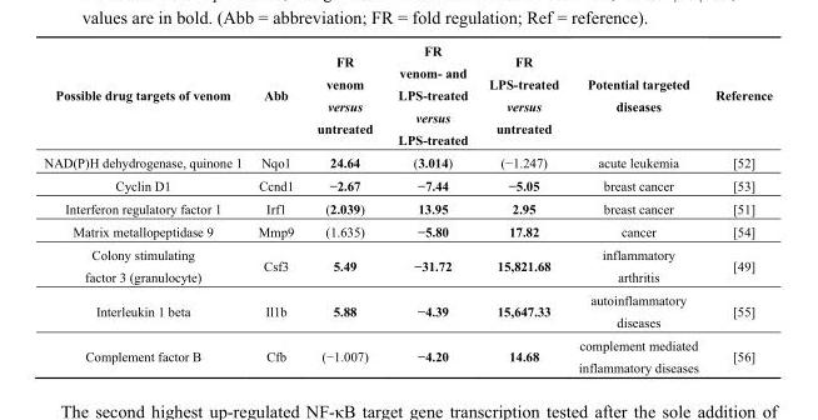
<table><thead><tr><td>Possible drug targets of venom</td><td>Abb</td><td>FR venom versus untreated</td><td>FR venom- and LPS-treated versus LPS-treated</td><td>FR LPS-treated versus untreated</td><td>Potential targeted diseases</td><td>Reference</td></tr></thead><tbody><tr><td>NAD(P)H dehydrogenase, quinone 1</td><td>Nqo1</td><td>24.64</td><td>(3.014)</td><td>(−1.247)</td><td>acute leukemia</td><td>[52]</td></tr><tr><td>Cyclin D1</td><td>Ccnd1</td><td>−2.67</td><td>−7.44</td><td>−5.05</td><td>breast cancer</td><td>[53]</td></tr><tr><td>Interferon regulatory factor 1</td><td>Irf1</td><td>(2.039)</td><td>13.95</td><td>2.95</td><td>breast cancer</td><td>[51]</td></tr><tr><td>Matrix metallopeptidase 9</td><td>Mmp9</td><td>(1.635)</td><td>−5.80</td><td>17.82</td><td>cancer</td><td>[54]</td></tr><tr><td>Colony stimulating factor 3 (granulocyte)</td><td>Csf3</td><td>5.49</td><td>−31.72</td><td>15,821.68</td><td>inflammatory arthritis</td><td>[49]</td></tr><tr><td>Interleukin 1 beta</td><td>Il1b</td><td>5.88</td><td>−4.39</td><td>15,647.33</td><td>autoinflammatory diseases</td><td>[55]</td></tr><tr><td>Complement factor B</td><td>Cfb</td><td>(−1.007)</td><td>−4.20</td><td>14.68</td><td>complement mediated inflammatory diseases</td><td>[56]</td></tr></tbody></table>